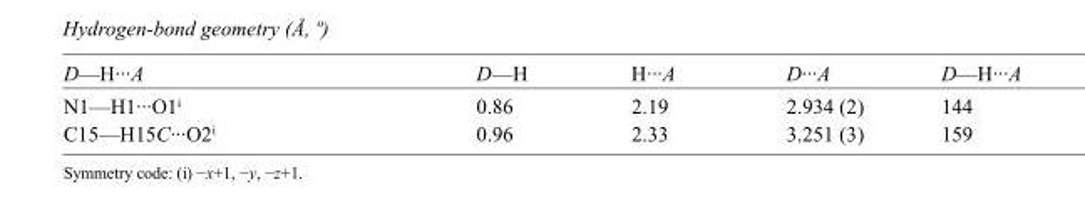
<table><tbody><tr><td>D—H···A</td><td>D—H</td><td>H···A</td><td>D···A</td><td>D—H···A</td></tr><tr><td>N1—H1···O1<sup>i</sup></td><td>0.86</td><td>2.19</td><td>2.934 (2)</td><td>144</td></tr><tr><td>C15—H15C···O2<sup>i</sup></td><td>0.96</td><td>2.33</td><td>3.251 (3)</td><td>159</td></tr></tbody></table>